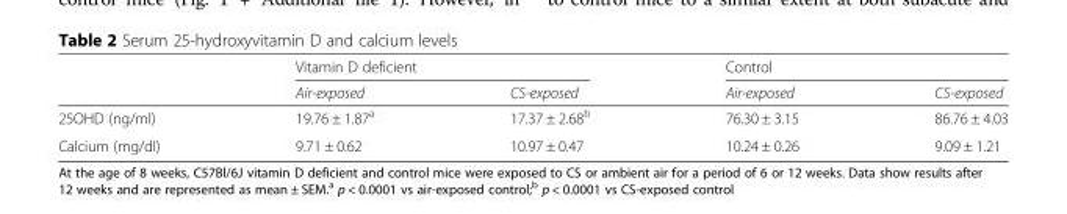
<table><thead><tr><td rowspan="2"></td><td colspan="2">Vitamin D deficient</td><td colspan="2">Control</td></tr><tr><td>Air-exposed</td><td>CS-exposed</td><td>Air-exposed</td><td>CS-exposed</td></tr></thead><tbody><tr><td>25OHD (ng/ml)</td><td>19.76 ± 1.87<sup>a</sup></td><td>17.37 ± 2.68<sup>b</sup></td><td>76.30 ± 3.15</td><td>86.76 ± 4.03</td></tr><tr><td>Calcium (mg/dl)</td><td>9.71 ± 0.62</td><td>10.97 ± 0.47</td><td>10.24 ± 0.26</td><td>9.09 ± 1.21</td></tr></tbody></table>